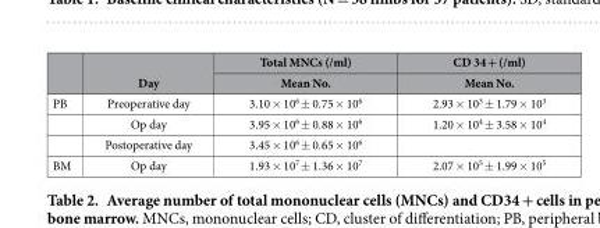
<table><thead><tr><td rowspan="2"></td><td rowspan="2">Day</td><td rowspan="2">Total MNCs (/ml) Mean No.</td><td rowspan="2">CD 34 + (/ml) Mean No.</td></tr><tr></tr></thead><tbody><tr><td rowspan="3">PB</td><td>Preoperative day</td><td>3.10 × 10<sup>6</sup> ± 0.75 × 10<sup>6</sup></td><td>2.93 × 10<sup>3</sup> ± 1.79 × 10<sup>3</sup></td></tr><tr><td>Op day</td><td>3.95 × 10<sup>6</sup> ± 0.88 × 10<sup>6</sup></td><td>1.20 × 10<sup>4</sup> ± 3.58 × 10<sup>4</sup></td></tr><tr><td>Postoperative day</td><td>3.45 × 10<sup>6</sup> ± 0.65 × 10<sup>6</sup></td><td></td></tr><tr><td>BM</td><td>Op day</td><td>1.93 × 10<sup>7</sup> ± 1.36 × 10<sup>7</sup></td><td>2.07 × 10<sup>5</sup> ± 1.99 × 10<sup>5</sup></td></tr></tbody></table>